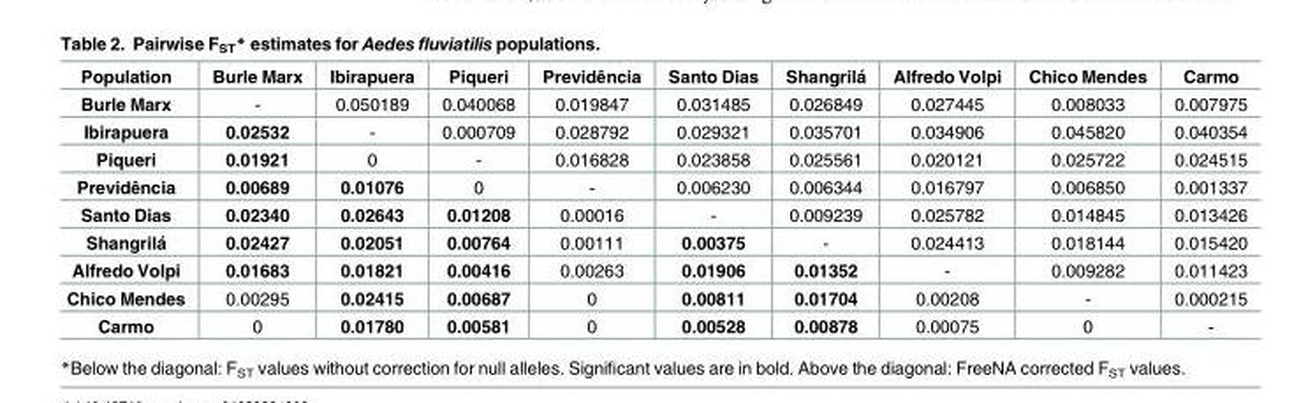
<table><tbody><tr><td>Population</td><td>Burle Marx</td><td>Ibirapuera</td><td>Piqueri</td><td>Previdência</td><td>Santo Dias</td><td>Shangrilá</td><td>Alfredo Volpi</td><td>Chico Mendes</td><td>Carmo</td></tr><tr><td>Burle Marx</td><td>-</td><td>0.050189</td><td>0.040068</td><td>0.019847</td><td>0.031485</td><td>0.026849</td><td>0.027445</td><td>0.008033</td><td>0.007975</td></tr><tr><td>Ibirapuera</td><td>0.02532</td><td>-</td><td>0.000709</td><td>0.028792</td><td>0.029321</td><td>0.035701</td><td>0.034906</td><td>0.045820</td><td>0.040354</td></tr><tr><td>Piqueri</td><td>0.01921</td><td>0</td><td>-</td><td>0.016828</td><td>0.023858</td><td>0.025561</td><td>0.020121</td><td>0.025722</td><td>0.024515</td></tr><tr><td>Previdência</td><td>0.00689</td><td>0.01076</td><td>0</td><td>-</td><td>0.006230</td><td>0.006344</td><td>0.016797</td><td>0.006850</td><td>0.001337</td></tr><tr><td>Santo Dias</td><td>0.02340</td><td>0.02643</td><td>0.01208</td><td>0.00016</td><td>-</td><td>0.009239</td><td>0.025782</td><td>0.014845</td><td>0.013426</td></tr><tr><td>Shangrilá</td><td>0.02427</td><td>0.02051</td><td>0.00764</td><td>0.00111</td><td>0.00375</td><td>-</td><td>0.024413</td><td>0.018144</td><td>0.015420</td></tr><tr><td>Alfredo Volpi</td><td>0.01683</td><td>0.01821</td><td>0.00416</td><td>0.00263</td><td>0.01906</td><td>0.01352</td><td>-</td><td>0.009282</td><td>0.011423</td></tr><tr><td>Chico Mendes</td><td>0.00295</td><td>0.02415</td><td>0.00687</td><td>0</td><td>0.00811</td><td>0.01704</td><td>0.00208</td><td>-</td><td>0.000215</td></tr><tr><td>Carmo</td><td>0</td><td>0.01780</td><td>0.00581</td><td>0</td><td>0.00528</td><td>0.00878</td><td>0.00075</td><td>0</td><td>-</td></tr></tbody></table>